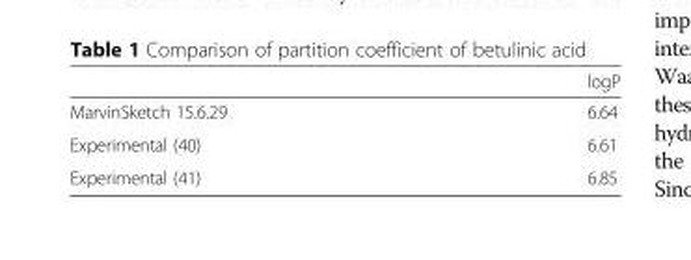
<table><thead><tr><td></td><td>logP</td></tr></thead><tbody><tr><td>MarvinSketch 15.6.29</td><td>6.64</td></tr><tr><td>Experimental (40)</td><td>6.61</td></tr><tr><td>Experimental (41)</td><td>6.85</td></tr></tbody></table>